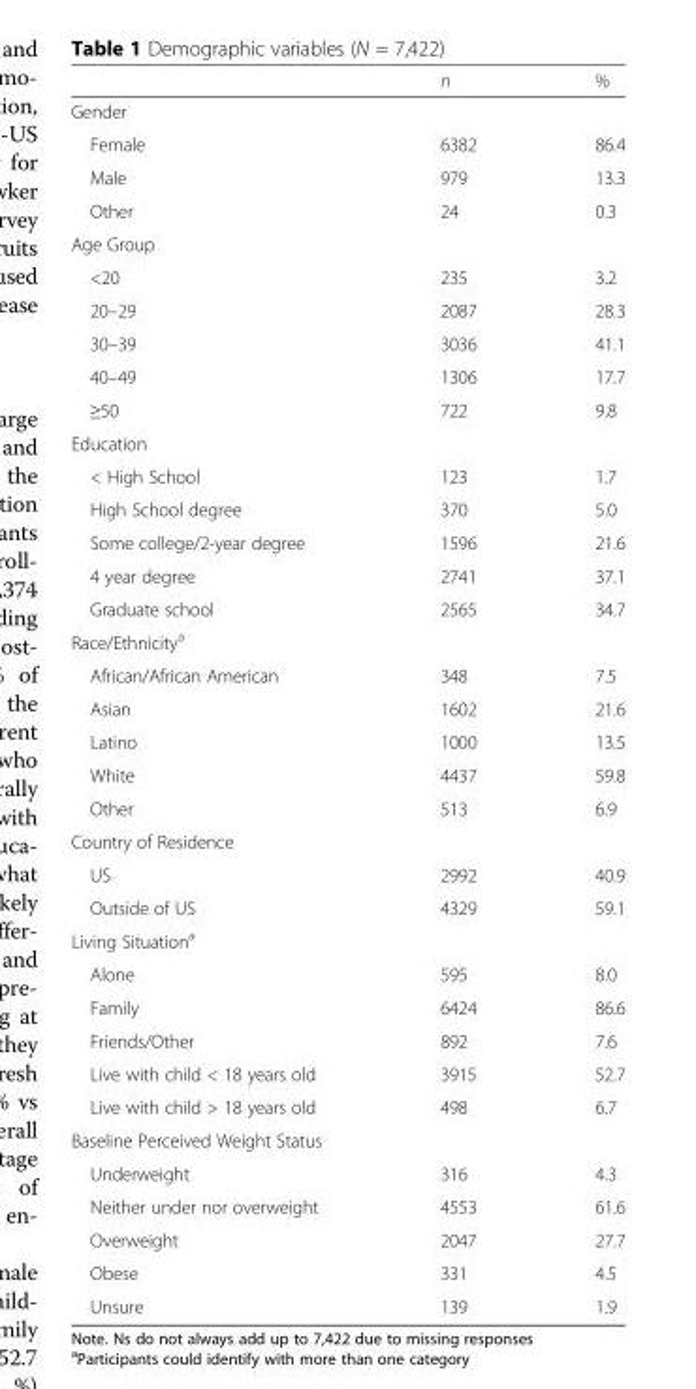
<table><thead><tr><td></td><td>n</td><td>%</td></tr></thead><tbody><tr><td colspan="3">Gender</td></tr><tr><td>Female</td><td>6382</td><td>86.4</td></tr><tr><td>Male</td><td>979</td><td>13.3</td></tr><tr><td>Other</td><td>24</td><td>0.3</td></tr><tr><td colspan="3">Age Group</td></tr><tr><td>&lt;20</td><td>235</td><td>3.2</td></tr><tr><td>20–29</td><td>2087</td><td>28.3</td></tr><tr><td>30–39</td><td>3036</td><td>41.1</td></tr><tr><td>40–49</td><td>1306</td><td>17.7</td></tr><tr><td>≥50</td><td>722</td><td>9.8</td></tr><tr><td colspan="3">Education</td></tr><tr><td>&lt; High School</td><td>123</td><td>1.7</td></tr><tr><td>High School degree</td><td>370</td><td>5.0</td></tr><tr><td>Some college/2-year degree</td><td>1596</td><td>21.6</td></tr><tr><td>4 year degree</td><td>2741</td><td>37.1</td></tr><tr><td>Graduate school</td><td>2565</td><td>34.7</td></tr><tr><td colspan="3">Race/Ethnicity<sup>a</sup></td></tr><tr><td>African/African American</td><td>348</td><td>7.5</td></tr><tr><td>Asian</td><td>1602</td><td>21.6</td></tr><tr><td>Latino</td><td>1000</td><td>13.5</td></tr><tr><td>White</td><td>4437</td><td>59.8</td></tr><tr><td>Other</td><td>513</td><td>6.9</td></tr><tr><td colspan="3">Country of Residence</td></tr><tr><td>US</td><td>2992</td><td>40.9</td></tr><tr><td>Outside of US</td><td>4329</td><td>59.1</td></tr><tr><td colspan="3">Living Situation<sup>a</sup></td></tr><tr><td>Alone</td><td>595</td><td>8.0</td></tr><tr><td>Family</td><td>6424</td><td>86.6</td></tr><tr><td>Friends/Other</td><td>892</td><td>7.6</td></tr><tr><td>Live with child &lt; 18 years old</td><td>3915</td><td>52.7</td></tr><tr><td>Live with child &gt; 18 years old</td><td>498</td><td>6.7</td></tr><tr><td colspan="3">Baseline Perceived Weight Status</td></tr><tr><td>Underweight</td><td>316</td><td>4.3</td></tr><tr><td>Neither under nor overweight</td><td>4553</td><td>61.6</td></tr><tr><td>Overweight</td><td>2047</td><td>27.7</td></tr><tr><td>Obese</td><td>331</td><td>4.5</td></tr><tr><td>Unsure</td><td>139</td><td>1.9</td></tr></tbody></table>